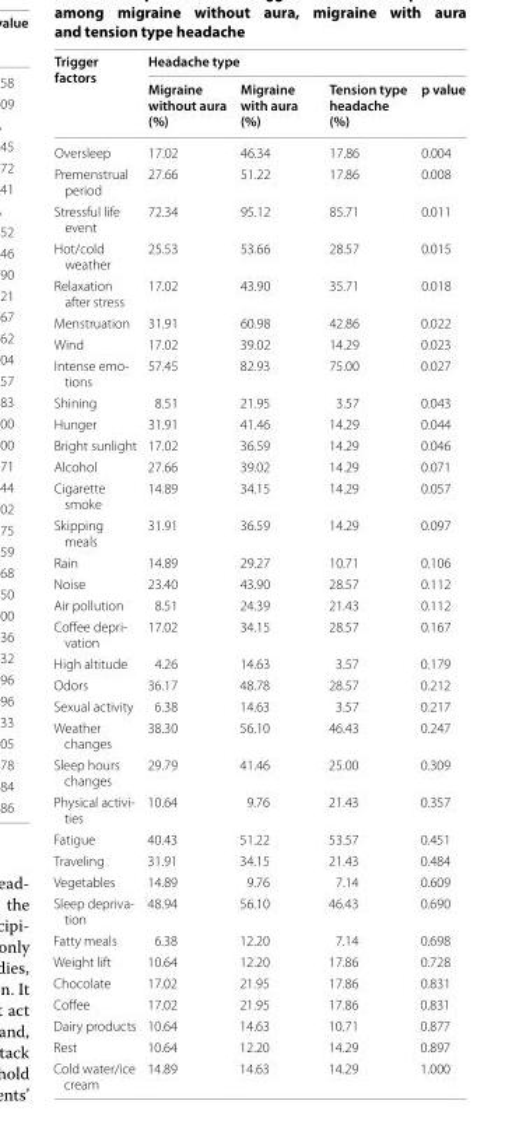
<table><thead><tr><td rowspan="2">Trigger factors</td><td colspan="4">Headache type</td></tr><tr><td>Migraine without aura (%)</td><td>Migraine with aura (%)</td><td>Tension type headache (%)</td><td>p value</td></tr></thead><tbody><tr><td>Oversleep</td><td>17.02</td><td>46.34</td><td>17.86</td><td>0.004</td></tr><tr><td>Premenstrual period</td><td>27.66</td><td>51.22</td><td>17.86</td><td>0.008</td></tr><tr><td>Stressful life event</td><td>72.34</td><td>95.12</td><td>85.71</td><td>0.011</td></tr><tr><td>Hot/cold weather</td><td>25.53</td><td>53.66</td><td>28.57</td><td>0.015</td></tr><tr><td>Relaxation after stress</td><td>17.02</td><td>43.90</td><td>35.71</td><td>0.018</td></tr><tr><td>Menstruation</td><td>31.91</td><td>60.98</td><td>42.86</td><td>0.022</td></tr><tr><td>Wind</td><td>17.02</td><td>39.02</td><td>14.29</td><td>0.023</td></tr><tr><td>Intense emo- tions</td><td>57.45</td><td>82.93</td><td>75.00</td><td>0.027</td></tr><tr><td>Shining</td><td>8.51</td><td>21.95</td><td>3.57</td><td>0.043</td></tr><tr><td>Hunger</td><td>31.91</td><td>41.46</td><td>14.29</td><td>0.044</td></tr><tr><td>Bright sunlight</td><td>17.02</td><td>36.59</td><td>14.29</td><td>0.046</td></tr><tr><td>Alcohol</td><td>27.66</td><td>39.02</td><td>14.29</td><td>0.071</td></tr><tr><td>Cigarette smoke</td><td>14.89</td><td>34.15</td><td>14.29</td><td>0.057</td></tr><tr><td>Skipping meals</td><td>31.91</td><td>36.59</td><td>14.29</td><td>0.097</td></tr><tr><td>Rain</td><td>14.89</td><td>29.27</td><td>10.71</td><td>0.106</td></tr><tr><td>Noise</td><td>23.40</td><td>43.90</td><td>28.57</td><td>0.112</td></tr><tr><td>Air pollution</td><td>8.51</td><td>24.39</td><td>21.43</td><td>0.112</td></tr><tr><td>Coffee depri- vation</td><td>17.02</td><td>34.15</td><td>28.57</td><td>0.167</td></tr><tr><td>High altitude</td><td>4.26</td><td>14.63</td><td>3.57</td><td>0.179</td></tr><tr><td>Odors</td><td>36.17</td><td>48.78</td><td>28.57</td><td>0.212</td></tr><tr><td>Sexual activity</td><td>6.38</td><td>14.63</td><td>3.57</td><td>0.217</td></tr><tr><td>Weather changes</td><td>38.30</td><td>56.10</td><td>46.43</td><td>0.247</td></tr><tr><td>Sleep hours changes</td><td>29.79</td><td>41.46</td><td>25.00</td><td>0.309</td></tr><tr><td>Physical activi- ties</td><td>10.64</td><td>9.76</td><td>21.43</td><td>0.357</td></tr><tr><td>Fatigue</td><td>40.43</td><td>51.22</td><td>53.57</td><td>0.451</td></tr><tr><td>Traveling</td><td>31.91</td><td>34.15</td><td>21.43</td><td>0.484</td></tr><tr><td>Vegetables</td><td>14.89</td><td>9.76</td><td>7.14</td><td>0.609</td></tr><tr><td>Sleep depriva- tion</td><td>48.94</td><td>56.10</td><td>46.43</td><td>0.690</td></tr><tr><td>Fatty meals</td><td>6.38</td><td>12.20</td><td>7.14</td><td>0.698</td></tr><tr><td>Weight lift</td><td>10.64</td><td>12.20</td><td>17.86</td><td>0.728</td></tr><tr><td>Chocolate</td><td>17.02</td><td>21.95</td><td>17.86</td><td>0.831</td></tr><tr><td>Coffee</td><td>17.02</td><td>21.95</td><td>17.86</td><td>0.831</td></tr><tr><td>Dairy products</td><td>10.64</td><td>14.63</td><td>10.71</td><td>0.877</td></tr><tr><td>Rest</td><td>10.64</td><td>12.20</td><td>14.29</td><td>0.897</td></tr><tr><td>Cold water/ice cream</td><td>14.89</td><td>14.63</td><td>14.29</td><td>1.000</td></tr></tbody></table>